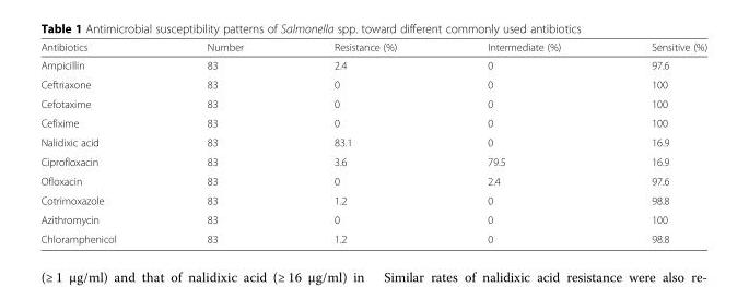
<table><thead><tr><td>Antibiotics</td><td>Number</td><td>Resistance (%)</td><td>Intermediate (%)</td><td>Sensitive (%)</td></tr></thead><tbody><tr><td>Ampicillin</td><td>83</td><td>2.4</td><td>0</td><td>97.6</td></tr><tr><td>Ceftriaxone</td><td>83</td><td>0</td><td>0</td><td>100</td></tr><tr><td>Cefotaxime</td><td>83</td><td>0</td><td>0</td><td>100</td></tr><tr><td>Cefixime</td><td>83</td><td>0</td><td>0</td><td>100</td></tr><tr><td>Nalidixic acid</td><td>83</td><td>83.1</td><td>0</td><td>16.9</td></tr><tr><td>Ciprofloxacin</td><td>83</td><td>3.6</td><td>79.5</td><td>16.9</td></tr><tr><td>Ofloxacin</td><td>83</td><td>0</td><td>2.4</td><td>97.6</td></tr><tr><td>Cotrimoxazole</td><td>83</td><td>1.2</td><td>0</td><td>98.8</td></tr><tr><td>Azithromycin</td><td>83</td><td>0</td><td>0</td><td>100</td></tr><tr><td>Chloramphenicol</td><td>83</td><td>1.2</td><td>0</td><td>98.8</td></tr></tbody></table>